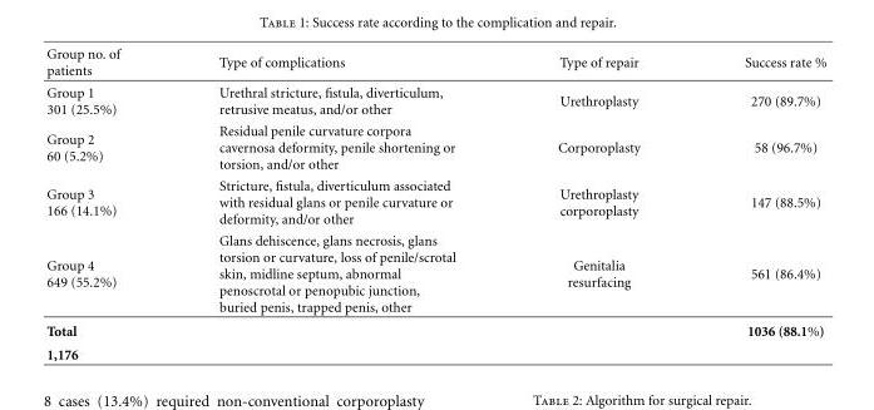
<table><thead><tr><td>Group no. of patients</td><td>Type of complications</td><td>Type of repair</td><td>Success rate %</td></tr></thead><tbody><tr><td>Group 1 301 (25.5%)</td><td>Urethral stricture, fistula, diverticulum, retrusive meatus, and/or other</td><td>Urethroplasty</td><td>270 (89.7%)</td></tr><tr><td>Group 2 60 (5.2%)</td><td>Residual penile curvature corpora cavernosa deformity, penile shortening or torsion, and/or other</td><td>Corporoplasty</td><td>58 (96.7%)</td></tr><tr><td>Group 3 166 (14.1%)</td><td>Stricture, fistula, diverticulum associated with residual glans or penile curvature or deformity, and/or other</td><td>Urethroplasty corporoplasty</td><td>147 (88.5%)</td></tr><tr><td>Group 4 649 (55.2%)</td><td>Glans dehiscence, glans necrosis, glans torsion or curvature, loss of penile/scrotal skin, midline septum, abnormal penoscrotal or penopubic junction, buried penis, trapped penis, other</td><td>Genitalia resurfacing</td><td>561 (86.4%)</td></tr><tr><td>Total</td><td></td><td></td><td>1036 (88.1%)</td></tr><tr><td>1,176</td><td></td><td></td><td></td></tr></tbody></table>